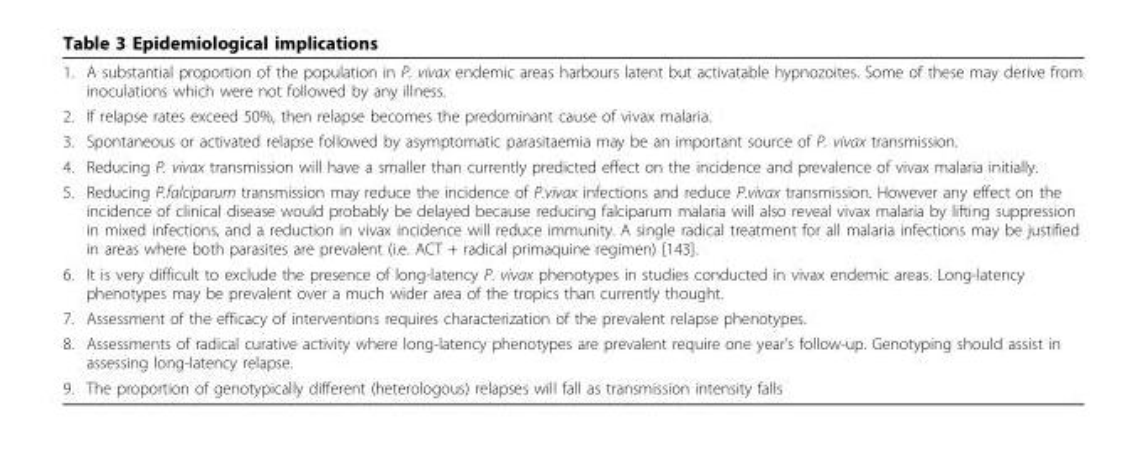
<table><tbody><tr><td>1.</td><td>A substantial proportion of the population in P. vivax endemic areas harbours latent but activatable hypnozoites. Some of these may derive from inoculations which were not followed by any illness.</td></tr><tr><td>2.</td><td>If relapse rates exceed 50%, then relapse becomes the predominant cause of vivax malaria.</td></tr><tr><td>3.</td><td>Spontaneous or activated relapse followed by asymptomatic parasitaemia may be an important source of P. vivax transmission.</td></tr><tr><td>4.</td><td>Reducing P. vivax transmission will have a smaller than currently predicted effect on the incidence and prevalence of vivax malaria initially.</td></tr><tr><td>5.</td><td>Reducing P.falciparum transmission may reduce the incidence of P.vivax infections and reduce P.vivax transmission. However any effect on the incidence of clinical disease would probably be delayed because reducing falciparum malaria will also reveal vivax malaria by lifting suppression in mixed infections, and a reduction in vivax incidence will reduce immunity. A single radical treatment for all malaria infections may be justified in areas where both parasites are prevalent (i.e. ACT + radical primaquine regimen) [143].</td></tr><tr><td>6.</td><td>It is very difficult to exclude the presence of long-latency P. vivax phenotypes in studies conducted in vivax endemic areas. Long-latency phenotypes may be prevalent over a much wider area of the tropics than currently thought.</td></tr><tr><td>7.</td><td>Assessment of the efficacy of interventions requires characterization of the prevalent relapse phenotypes.</td></tr><tr><td>8.</td><td>Assessments of radical curative activity where long-latency phenotypes are prevalent require one year’s follow-up. Genotyping should assist in assessing long-latency relapse.</td></tr><tr><td>9.</td><td>The proportion of genotypically different (heterologous) relapses will fall as transmission intensity falls</td></tr></tbody></table>